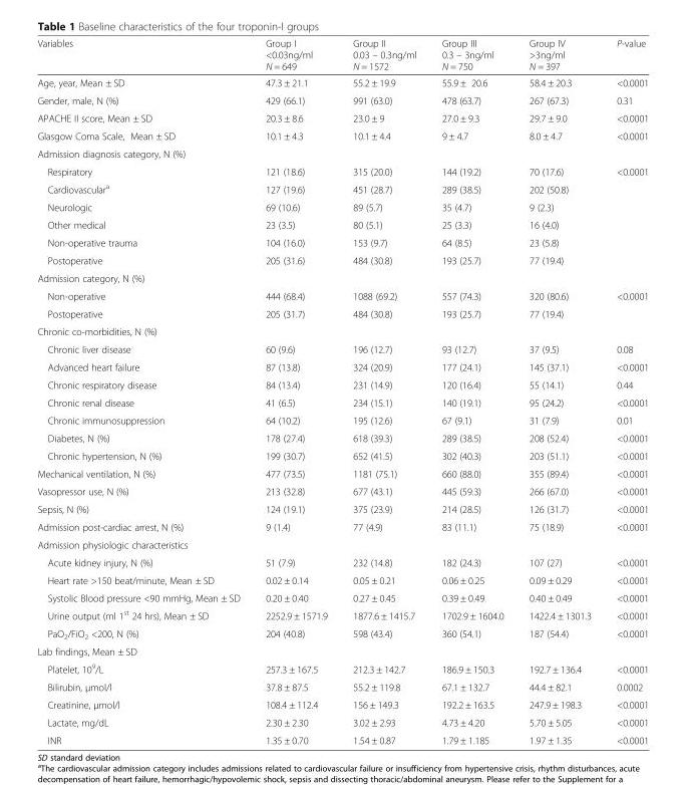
<table><thead><tr><td>Variables</td><td>Group I &lt;0.03ng/ml N = 649</td><td>Group II 0.03 – 0.3ng/ml N = 1572</td><td>Group III 0.3 – 3ng/ml N = 750</td><td>Group IV &gt;3ng/ml N = 397</td><td>P-value</td></tr></thead><tbody><tr><td>Age, year, Mean ± SD</td><td>47.3 ± 21.1</td><td>55.2 ± 19.9</td><td>55.9 ± 20.6</td><td>58.4 ± 20.3</td><td>&lt;0.0001</td></tr><tr><td>Gender, male, N (%)</td><td>429 (66.1)</td><td>991 (63.0)</td><td>478 (63.7)</td><td>267 (67.3)</td><td>0.31</td></tr><tr><td>APACHE II score, Mean ± SD</td><td>20.3 ± 8.6</td><td>23.0 ± 9</td><td>27.0 ± 9.3</td><td>29.7 ± 9.0</td><td>&lt;0.0001</td></tr><tr><td>Glasgow Coma Scale, Mean ± SD</td><td>10.1 ± 4.3</td><td>10.1 ± 4.4</td><td>9 ± 4.7</td><td>8.0 ± 4.7</td><td>&lt;0.0001</td></tr><tr><td colspan="6">Admission diagnosis category, N (%)</td></tr><tr><td>Respiratory</td><td>121 (18.6)</td><td>315 (20.0)</td><td>144 (19.2)</td><td>70 (17.6)</td><td rowspan="6">&lt;0.0001</td></tr><tr><td>Cardiovascular<sup>a</sup></td><td>127 (19.6)</td><td>451 (28.7)</td><td>289 (38.5)</td><td>202 (50.8)</td></tr><tr><td>Neurologic</td><td>69 (10.6)</td><td>89 (5.7)</td><td>35 (4.7)</td><td>9 (2.3)</td></tr><tr><td>Other medical</td><td>23 (3.5)</td><td>80 (5.1)</td><td>25 (3.3)</td><td>16 (4.0)</td></tr><tr><td>Non-operative trauma</td><td>104 (16.0)</td><td>153 (9.7)</td><td>64 (8.5)</td><td>23 (5.8)</td></tr><tr><td>Postoperative</td><td>205 (31.6)</td><td>484 (30.8)</td><td>193 (25.7)</td><td>77 (19.4)</td></tr><tr><td colspan="6">Admission category, N (%)</td></tr><tr><td>Non-operative</td><td>444 (68.4)</td><td>1088 (69.2)</td><td>557 (74.3)</td><td>320 (80.6)</td><td rowspan="2">&lt;0.0001</td></tr><tr><td>Postoperative</td><td>205 (31.7)</td><td>484 (30.8)</td><td>193 (25.7)</td><td>77 (19.4)</td></tr><tr><td colspan="6">Chronic co-morbidities, N (%)</td></tr><tr><td>Chronic liver disease</td><td>60 (9.6)</td><td>196 (12.7)</td><td>93 (12.7)</td><td>37 (9.5)</td><td>0.08</td></tr><tr><td>Advanced heart failure</td><td>87 (13.8)</td><td>324 (20.9)</td><td>177 (24.1)</td><td>145 (37.1)</td><td>&lt;0.0001</td></tr><tr><td>Chronic respiratory disease</td><td>84 (13.4)</td><td>231 (14.9)</td><td>120 (16.4)</td><td>55 (14.1)</td><td>0.44</td></tr><tr><td>Chronic renal disease</td><td>41 (6.5)</td><td>234 (15.1)</td><td>140 (19.1)</td><td>95 (24.2)</td><td>&lt;0.0001</td></tr><tr><td>Chronic immunosuppression</td><td>64 (10.2)</td><td>195 (12.6)</td><td>67 (9.1)</td><td>31 (7.9)</td><td>0.01</td></tr><tr><td>Diabetes, N (%)</td><td>178 (27.4)</td><td>618 (39.3)</td><td>289 (38.5)</td><td>208 (52.4)</td><td>&lt;0.0001</td></tr><tr><td>Chronic hypertension, N (%)</td><td>199 (30.7)</td><td>652 (41.5)</td><td>302 (40.3)</td><td>203 (51.1)</td><td>&lt;0.0001</td></tr><tr><td>Mechanical ventilation, N (%)</td><td>477 (73.5)</td><td>1181 (75.1)</td><td>660 (88.0)</td><td>355 (89.4)</td><td>&lt;0.0001</td></tr><tr><td>Vasopressor use, N (%)</td><td>213 (32.8)</td><td>677 (43.1)</td><td>445 (59.3)</td><td>266 (67.0)</td><td>&lt;0.0001</td></tr><tr><td>Sepsis, N (%)</td><td>124 (19.1)</td><td>375 (23.9)</td><td>214 (28.5)</td><td>126 (31.7)</td><td>&lt;0.0001</td></tr><tr><td>Admission post-cardiac arrest, N (%)</td><td>9 (1.4)</td><td>77 (4.9)</td><td>83 (11.1)</td><td>75 (18.9)</td><td>&lt;0.0001</td></tr><tr><td colspan="6">Admission physiologic characteristics</td></tr><tr><td>Acute kidney injury, N (%)</td><td>51 (7.9)</td><td>232 (14.8)</td><td>182 (24.3)</td><td>107 (27)</td><td>&lt;0.0001</td></tr><tr><td>Heart rate &gt;150 beat/minute, Mean ± SD</td><td>0.02 ± 0.14</td><td>0.05 ± 0.21</td><td>0.06 ± 0.25</td><td>0.09 ± 0.29</td><td>&lt;0.0001</td></tr><tr><td>Systolic Blood pressure &lt;90 mmHg, Mean ± SD</td><td>0.20 ± 0.40</td><td>0.27 ± 0.45</td><td>0.39 ± 0.49</td><td>0.40 ± 0.49</td><td>&lt;0.0001</td></tr><tr><td>Urine output (ml 1<sup>st</sup> 24 hrs), Mean ± SD</td><td>2252.9 ± 1571.9</td><td>1877.6 ± 1415.7</td><td>1702.9 ± 1604.0</td><td>1422.4 ± 1301.3</td><td>&lt;0.0001</td></tr><tr><td>PaO<sub>2</sub>/FiO<sub>2</sub> &lt;200, N (%)</td><td>204 (40.8)</td><td>598 (43.4)</td><td>360 (54.1)</td><td>187 (54.4)</td><td>&lt;0.0001</td></tr><tr><td colspan="6">Lab findings, Mean ± SD</td></tr><tr><td>Platelet, 10<sup>9</sup>/L</td><td>257.3 ± 167.5</td><td>212.3 ± 142.7</td><td>186.9 ± 150.3</td><td>192.7 ± 136.4</td><td>&lt;0.0001</td></tr><tr><td>Bilirubin, μmol/l</td><td>37.8 ± 87.5</td><td>55.2 ± 119.8</td><td>67.1 ± 132.7</td><td>44.4 ± 82.1</td><td>0.0002</td></tr><tr><td>Creatinine, μmol/l</td><td>108.4 ± 112.4</td><td>156 ± 149.3</td><td>192.2 ± 163.5</td><td>247.9 ± 198.3</td><td>&lt;0.0001</td></tr><tr><td>Lactate, mg/dL</td><td>2.30 ± 2.30</td><td>3.02 ± 2.93</td><td>4.73 ± 4.20</td><td>5.70 ± 5.05</td><td>&lt;0.0001</td></tr><tr><td>INR</td><td>1.35 ± 0.70</td><td>1.54 ± 0.87</td><td>1.79 ± 1.185</td><td>1.97 ± 1.35</td><td>&lt;0.0001</td></tr></tbody></table>